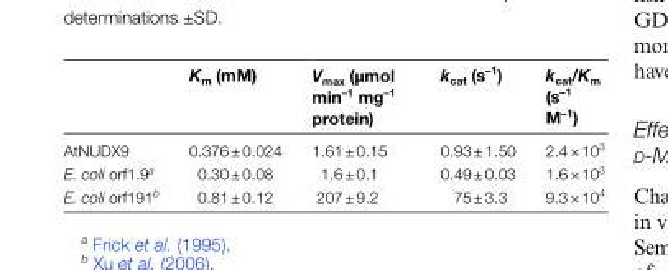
<table><thead><tr><td></td><td>K<sub>m</sub> (mM)</td><td>V<sub>max</sub> (μmol min<sup>–1</sup> mg<sup>–1</sup> protein)</td><td>k<sub>cat</sub> (s<sup>–1</sup>)</td><td>k<sub>cat</sub>/K<sub>m</sub> (s<sup>–1</sup> M<sup>–1</sup>)</td></tr></thead><tbody><tr><td>AtNUDX9</td><td>0.376 ± 0.024</td><td>1.61 ± 0.15</td><td>0.93 ± 1.50</td><td>2.4 × 10<sup>3</sup></td></tr><tr><td>E. coli orf1.9<sup>a</sup></td><td>0.30 ± 0.08</td><td>1.6 ± 0.1</td><td>0.49 ± 0.03</td><td>1.6 × 10<sup>3</sup></td></tr><tr><td>E. coli orf191<sup>b</sup></td><td>0.81 ± 0.12</td><td>207 ± 9.2</td><td>75 ± 3.3</td><td>9.3 × 10<sup>4</sup></td></tr></tbody></table>